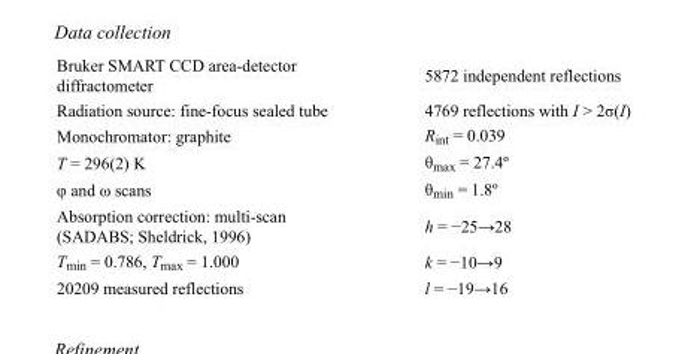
<table><tbody><tr><td>Bruker SMART CCD area-detector diffractometer</td><td>5872 independent reflections</td></tr><tr><td>Radiation source: fine-focus sealed tube</td><td>4769 reflections with I &gt; 2σ(I)</td></tr><tr><td>Monochromator: graphite</td><td>R<sub>int</sub> = 0.039</td></tr><tr><td>T = 296(2) K</td><td>θ<sub>max</sub> = 27.4º</td></tr><tr><td>φ and ω scans</td><td>θ<sub>min</sub> = 1.8º</td></tr><tr><td>Absorption correction: multi-scan (SADABS; Sheldrick, 1996)</td><td>h = −25→28</td></tr><tr><td>T<sub>min</sub> = 0.786, T<sub>max</sub> = 1.000</td><td>k = −10→9</td></tr><tr><td>20209 measured reflections</td><td>l = −19→16</td></tr></tbody></table>